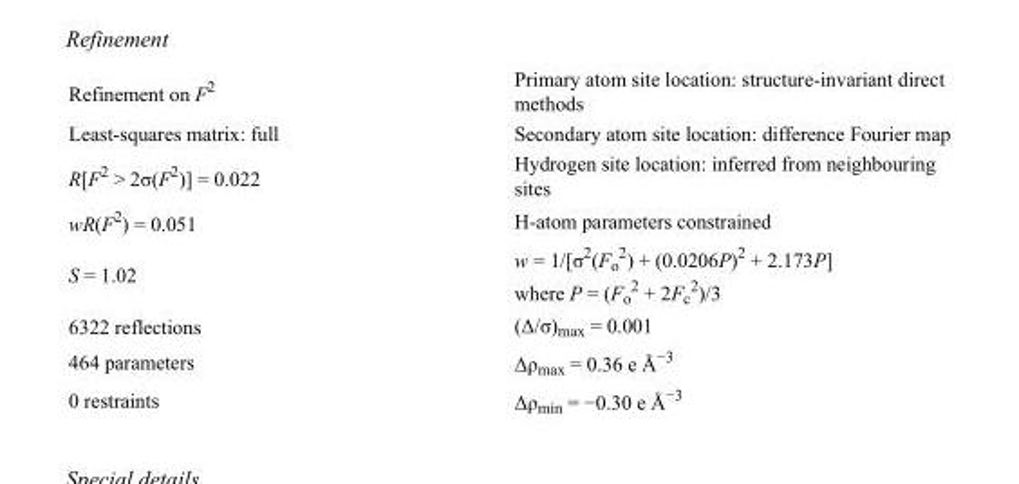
<table><tbody><tr><td>Refinement on F<sup>2</sup></td><td>Primary atom site location: structure-invariant direct methods</td></tr><tr><td>Least-squares matrix: full</td><td>Secondary atom site location: difference Fourier map</td></tr><tr><td>R[F<sup>2</sup> &gt; 2σ(F<sup>2</sup>)] = 0.022</td><td>Hydrogen site location: inferred from neighbouring sites</td></tr><tr><td>wR(F<sup>2</sup>) = 0.051</td><td>H-atom parameters constrained</td></tr><tr><td>S = 1.02</td><td>w = 1/[σ<sup>2</sup>(F<sub>o</sub> <sup>2</sup>) + (0.0206P)<sup>2</sup> + 2.173P] where P = (F<sub>o</sub> <sup>2</sup> + 2F<sub>c</sub> <sup>2</sup>)/3</td></tr><tr><td>6322 reflections</td><td>(Δ/σ)<sub>max</sub> = 0.001</td></tr><tr><td>464 parameters</td><td>Δρ<sub>max</sub> = 0.36 e Å<sup>−3</sup></td></tr><tr><td>0 restraints</td><td>Δρ<sub>min</sub> = −0.30 e Å<sup>−3</sup></td></tr></tbody></table>